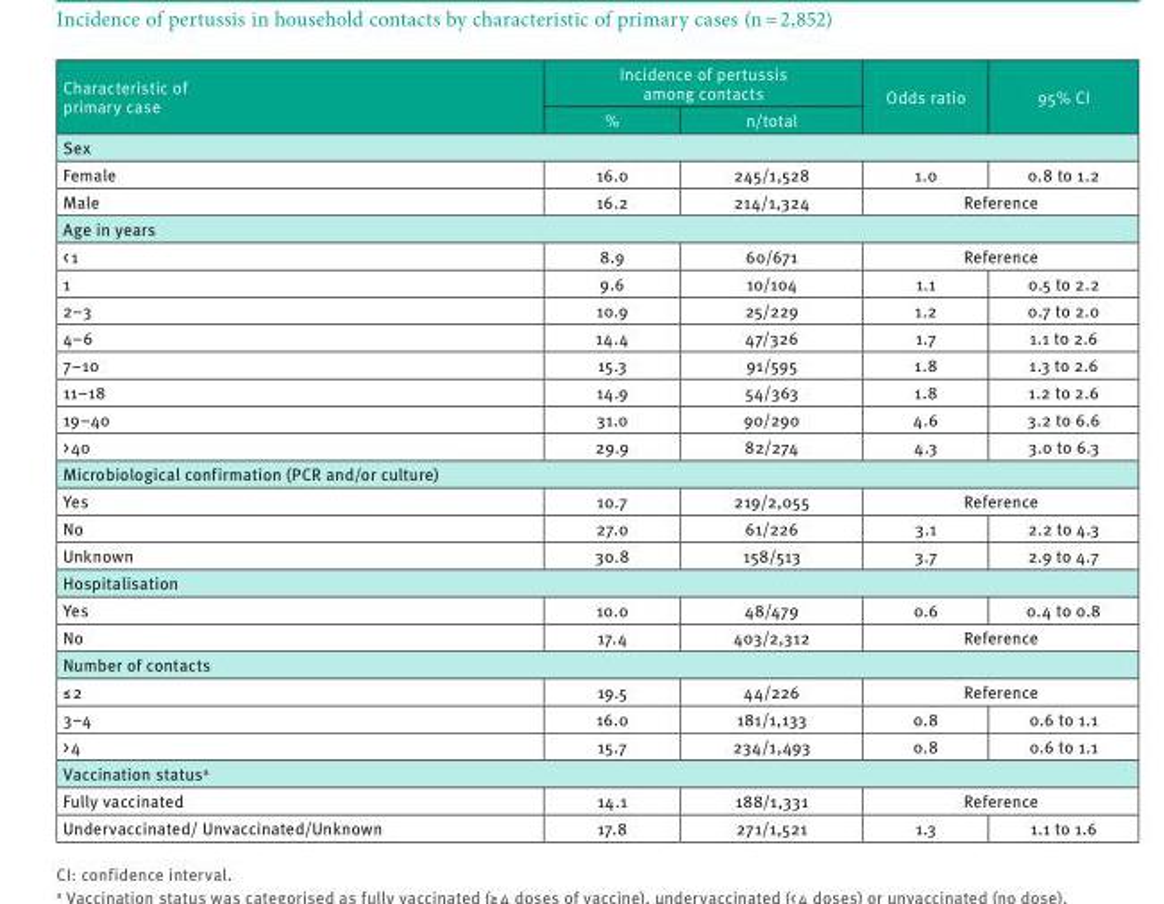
<table><thead><tr><td rowspan="2">Characteristic of primary case</td><td colspan="2">Incidence of pertussis among contacts</td><td rowspan="2">Odds ratio</td><td rowspan="2">95% CI</td></tr><tr><td>%</td><td>n/total</td></tr></thead><tbody><tr><td colspan="5">Sex</td></tr><tr><td>Female</td><td>16.0</td><td>245/1,528</td><td>1.0</td><td>0.8 to 1.2</td></tr><tr><td>Male</td><td>16.2</td><td>214/1,324</td><td colspan="2">Reference</td></tr><tr><td colspan="5">Age in years</td></tr><tr><td>&lt; 1</td><td>8.9</td><td>60/671</td><td colspan="2">Reference</td></tr><tr><td>1</td><td>9.6</td><td>10/104</td><td>1.1</td><td>0.5 to 2.2</td></tr><tr><td>2–3</td><td>10.9</td><td>25/229</td><td>1.2</td><td>0.7 to 2.0</td></tr><tr><td>4–6</td><td>14.4</td><td>47/326</td><td>1.7</td><td>1.1 to 2.6</td></tr><tr><td>7–10</td><td>15.3</td><td>91/595</td><td>1.8</td><td>1.3 to 2.6</td></tr><tr><td>11–18</td><td>14.9</td><td>54/363</td><td>1.8</td><td>1.2 to 2.6</td></tr><tr><td>19–40</td><td>31.0</td><td>90/290</td><td>4.6</td><td>3.2 to 6.6</td></tr><tr><td>&gt; 40</td><td>29.9</td><td>82/274</td><td>4.3</td><td>3.0 to 6.3</td></tr><tr><td colspan="5">Microbiological confirmation (PCR and/or culture)</td></tr><tr><td>Yes</td><td>10.7</td><td>219/2,055</td><td colspan="2">Reference</td></tr><tr><td>No</td><td>27.0</td><td>61/226</td><td>3.1</td><td>2.2 to 4.3</td></tr><tr><td>Unknown</td><td>30.8</td><td>158/513</td><td>3.7</td><td>2.9 to 4.7</td></tr><tr><td colspan="5">Hospitalisation</td></tr><tr><td>Yes</td><td>10.0</td><td>48/479</td><td>0.6</td><td>0.4 to 0.8</td></tr><tr><td>No</td><td>17.4</td><td>403/2,312</td><td colspan="2">Reference</td></tr><tr><td colspan="5">Number of contacts</td></tr><tr><td>≤ 2</td><td>19.5</td><td>44/226</td><td colspan="2">Reference</td></tr><tr><td>3–4</td><td>16.0</td><td>181/1,133</td><td>0.8</td><td>0.6 to 1.1</td></tr><tr><td>&gt; 4</td><td>15.7</td><td>234/1,493</td><td>0.8</td><td>0.6 to 1.1</td></tr><tr><td colspan="5">Vaccination status<sup>a</sup></td></tr><tr><td>Fully vaccinated</td><td>14.1</td><td>188/1,331</td><td colspan="2">Reference</td></tr><tr><td>Undervaccinated/ Unvaccinated/Unknown</td><td>17.8</td><td>271/1,521</td><td>1.3</td><td>1.1 to 1.6</td></tr></tbody></table>